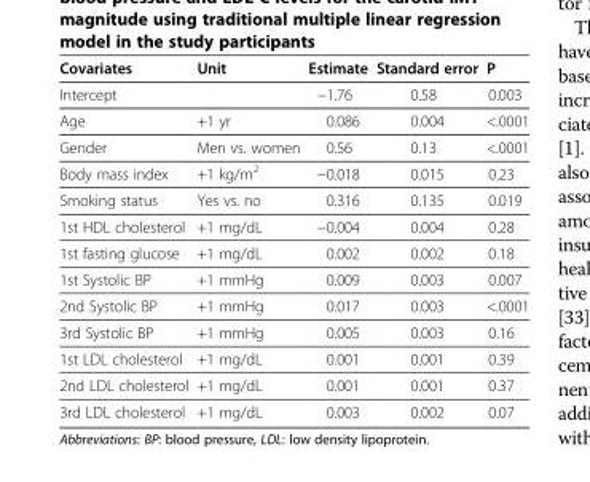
<table><thead><tr><td>Covariates</td><td>Unit</td><td>Estimate</td><td>Standard error</td><td>P</td></tr></thead><tbody><tr><td>Intercept</td><td></td><td>−1.76</td><td>0.58</td><td>0.003</td></tr><tr><td>Age</td><td>+1 yr</td><td>0.086</td><td>0.004</td><td>&lt;.0001</td></tr><tr><td>Gender</td><td>Men vs. women</td><td>0.56</td><td>0.13</td><td>&lt;.0001</td></tr><tr><td>Body mass index</td><td>+1 kg/m<sup>2</sup></td><td>−0.018</td><td>0.015</td><td>0.23</td></tr><tr><td>Smoking status</td><td>Yes vs. no</td><td>0.316</td><td>0.135</td><td>0.019</td></tr><tr><td>1st HDL cholesterol</td><td>+1 mg/dL</td><td>−0.004</td><td>0.004</td><td>0.28</td></tr><tr><td>1st fasting glucose</td><td>+1 mg/dL</td><td>0.002</td><td>0.002</td><td>0.18</td></tr><tr><td>1st Systolic BP</td><td>+1 mmHg</td><td>0.009</td><td>0.003</td><td>0.007</td></tr><tr><td>2nd Systolic BP</td><td>+1 mmHg</td><td>0.017</td><td>0.003</td><td>&lt;.0001</td></tr><tr><td>3rd Systolic BP</td><td>+1 mmHg</td><td>0.005</td><td>0.003</td><td>0.16</td></tr><tr><td>1st LDL cholesterol</td><td>+1 mg/dL</td><td>0.001</td><td>0.001</td><td>0.39</td></tr><tr><td>2nd LDL cholesterol</td><td>+1 mg/dL</td><td>0.001</td><td>0.001</td><td>0.37</td></tr><tr><td>3rd LDL cholesterol</td><td>+1 mg/dL</td><td>0.003</td><td>0.002</td><td>0.07</td></tr></tbody></table>